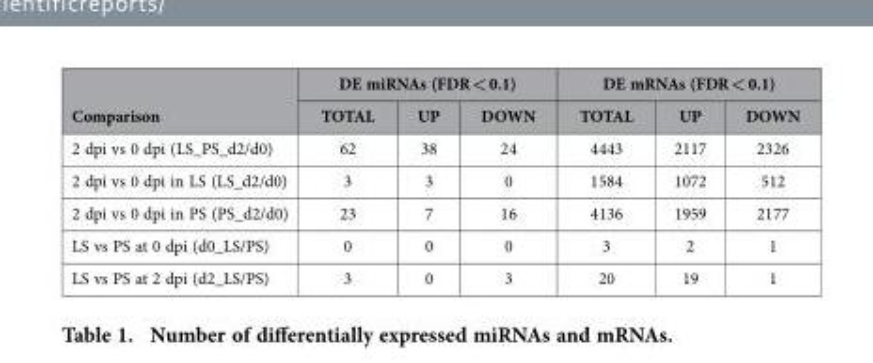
<table><thead><tr><td rowspan="2">Comparison</td><td colspan="3">DE miRNAs (FDR &lt; 0.1)</td><td colspan="3">DE mRNAs (FDR &lt; 0.1)</td></tr><tr><td>TOTAL</td><td>UP</td><td>DOWN</td><td>TOTAL</td><td>UP</td><td>DOWN</td></tr></thead><tbody><tr><td>2 dpi vs 0 dpi (LS_PS_d2/d0)</td><td>62</td><td>38</td><td>24</td><td>4443</td><td>2117</td><td>2326</td></tr><tr><td>2 dpi vs 0 dpi in LS (LS_d2/d0)</td><td>3</td><td>3</td><td>0</td><td>1584</td><td>1072</td><td>512</td></tr><tr><td>2 dpi vs 0 dpi in PS (PS_d2/d0)</td><td>23</td><td>7</td><td>16</td><td>4136</td><td>1959</td><td>2177</td></tr><tr><td>LS vs PS at 0 dpi (d0_LS/PS)</td><td>0</td><td>0</td><td>0</td><td>3</td><td>2</td><td>1</td></tr><tr><td>LS vs PS at 2 dpi (d2_LS/PS)</td><td>3</td><td>0</td><td>3</td><td>20</td><td>19</td><td>1</td></tr></tbody></table>